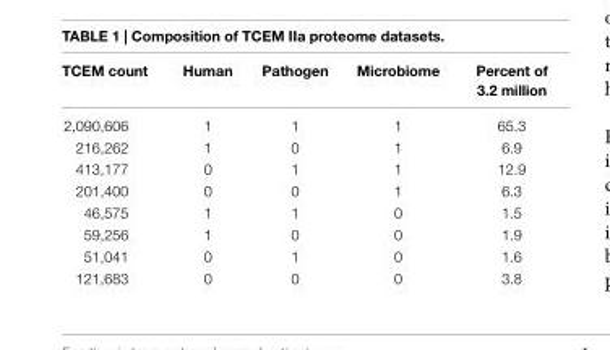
<table><thead><tr><td>TceM count</td><td>human</td><td>Pathogen</td><td>Microbiome</td><td>Percent of 3.2 million</td></tr></thead><tbody><tr><td>2,090,606</td><td>1</td><td>1</td><td>1</td><td>65.3</td></tr><tr><td>216,262</td><td>1</td><td>0</td><td>1</td><td>6.9</td></tr><tr><td>413,177</td><td>0</td><td>1</td><td>1</td><td>12.9</td></tr><tr><td>201,400</td><td>0</td><td>0</td><td>1</td><td>6.3</td></tr><tr><td>46,575</td><td>1</td><td>1</td><td>0</td><td>1.5</td></tr><tr><td>59,256</td><td>1</td><td>0</td><td>0</td><td>1.9</td></tr><tr><td>51,041</td><td>0</td><td>1</td><td>0</td><td>1.6</td></tr><tr><td>121,683</td><td>0</td><td>0</td><td>0</td><td>3.8</td></tr></tbody></table>